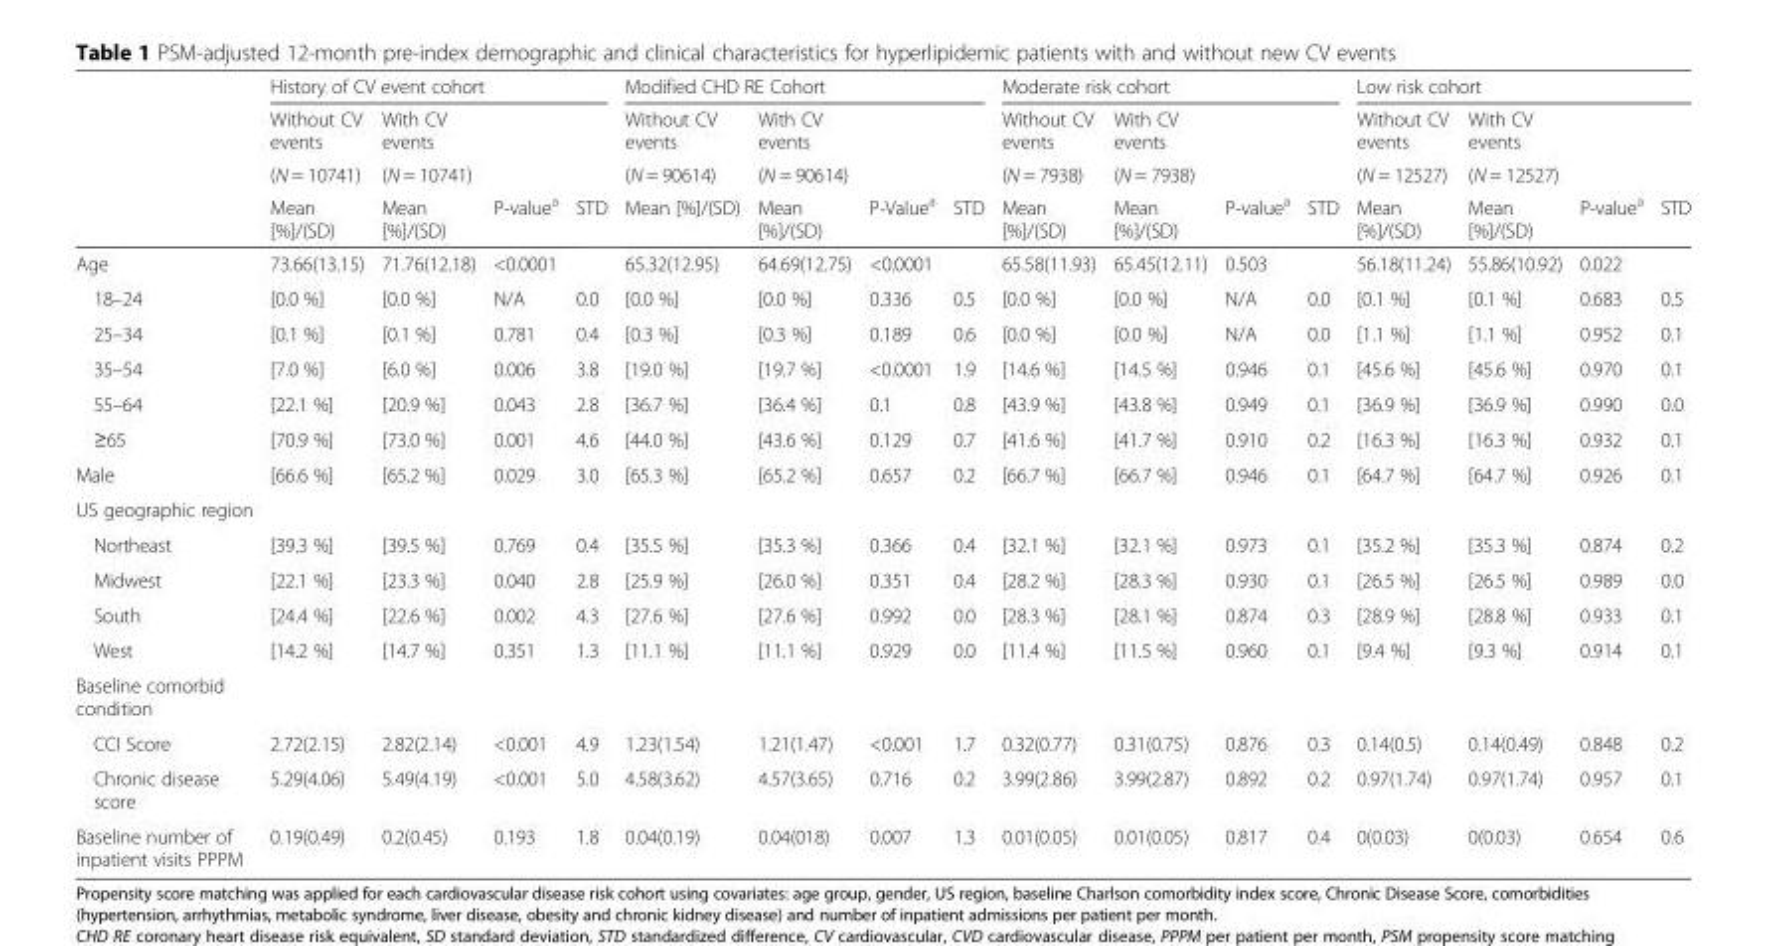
<table><thead><tr><td rowspan="4"></td><td colspan="4">History of CV event cohort</td><td colspan="4">Modified CHD RE Cohort</td><td colspan="4">Moderate risk cohort</td><td colspan="4">Low risk cohort</td></tr><tr><td rowspan="3">Without CV events (N = 10741) Mean [%]/(SD)</td><td rowspan="3">With CV events (N = 10741) Mean [%]/(SD)</td><td rowspan="3">P-valuea</td><td rowspan="3">STD</td><td rowspan="3">Without CV events (N = 90614) Mean [%]/(SD)</td><td rowspan="3">With CV events (N = 90614) Mean [%]/(SD)</td><td rowspan="3">P-Valuea</td><td rowspan="3">STD</td><td rowspan="3">Without CV events (N = 7938) Mean [%]/(SD)</td><td rowspan="3">With CV events (N = 7938) Mean [%]/(SD)</td><td rowspan="3">P-valuea</td><td rowspan="3">STD</td><td rowspan="3">Without CV events (N = 12527) Mean [%]/(SD)</td><td rowspan="3">With CV events (N = 12527) Mean [%]/(SD)</td><td rowspan="3">P-valuea</td><td rowspan="3">STD</td></tr><tr></tr><tr></tr></thead><tbody><tr><td>Age</td><td>73.66(13.15)</td><td>71.76(12.18)</td><td>&lt;0.0001</td><td></td><td>65.32(12.95)</td><td>64.69(12.75)</td><td>&lt;0.0001</td><td></td><td>65.58(11.93)</td><td>65.45(12.11)</td><td>0.503</td><td></td><td>56.18(11.24)</td><td>55.86(10.92)</td><td>0.022</td><td></td></tr><tr><td>18–24</td><td>[0.0 %]</td><td>[0.0 %]</td><td>N/A</td><td>0.0</td><td>[0.0 %]</td><td>[0.0 %]</td><td>0.336</td><td>0.5</td><td>[0.0 %]</td><td>[0.0 %]</td><td>N/A</td><td>0.0</td><td>[0.1 %]</td><td>[0.1 %]</td><td>0.683</td><td>0.5</td></tr><tr><td>25–34</td><td>[0.1 %]</td><td>[0.1 %]</td><td>0.781</td><td>0.4</td><td>[0.3 %]</td><td>[0.3 %]</td><td>0.189</td><td>0.6</td><td>[0.0 %]</td><td>[0.0 %]</td><td>N/A</td><td>0.0</td><td>[1.1 %]</td><td>[1.1 %]</td><td>0.952</td><td>0.1</td></tr><tr><td>35–54</td><td>[7.0 %]</td><td>[6.0 %]</td><td>0.006</td><td>3.8</td><td>[19.0 %]</td><td>[19.7 %]</td><td>&lt;0.0001</td><td>1.9</td><td>[14.6 %]</td><td>[14.5 %]</td><td>0.946</td><td>0.1</td><td>[45.6 %]</td><td>[45.6 %]</td><td>0.970</td><td>0.1</td></tr><tr><td>55–64</td><td>[22.1 %]</td><td>[20.9 %]</td><td>0.043</td><td>2.8</td><td>[36.7 %]</td><td>[36.4 %]</td><td>0.1</td><td>0.8</td><td>[43.9 %]</td><td>[43.8 %]</td><td>0.949</td><td>0.1</td><td>[36.9 %]</td><td>[36.9 %]</td><td>0.990</td><td>0.0</td></tr><tr><td>≥65</td><td>[70.9 %]</td><td>[73.0 %]</td><td>0.001</td><td>4.6</td><td>[44.0 %]</td><td>[43.6 %]</td><td>0.129</td><td>0.7</td><td>[41.6 %]</td><td>[41.7 %]</td><td>0.910</td><td>0.2</td><td>[16.3 %]</td><td>[16.3 %]</td><td>0.932</td><td>0.1</td></tr><tr><td>Male</td><td>[66.6 %]</td><td>[65.2 %]</td><td>0.029</td><td>3.0</td><td>[65.3 %]</td><td>[65.2 %]</td><td>0.657</td><td>0.2</td><td>[66.7 %]</td><td>[66.7 %]</td><td>0.946</td><td>0.1</td><td>[64.7 %]</td><td>[64.7 %]</td><td>0.926</td><td>0.1</td></tr><tr><td colspan="17">US geographic region</td></tr><tr><td>Northeast</td><td>[39.3 %]</td><td>[39.5 %]</td><td>0.769</td><td>0.4</td><td>[35.5 %]</td><td>[35.3 %]</td><td>0.366</td><td>0.4</td><td>[32.1 %]</td><td>[32.1 %]</td><td>0.973</td><td>0.1</td><td>[35.2 %]</td><td>[35.3 %]</td><td>0.874</td><td>0.2</td></tr><tr><td>Midwest</td><td>[22.1 %]</td><td>[23.3 %]</td><td>0.040</td><td>2.8</td><td>[25.9 %]</td><td>[26.0 %]</td><td>0.351</td><td>0.4</td><td>[28.2 %]</td><td>[28.3 %]</td><td>0.930</td><td>0.1</td><td>[26.5 %]</td><td>[26.5 %]</td><td>0.989</td><td>0.0</td></tr><tr><td>South</td><td>[24.4 %]</td><td>[22.6 %]</td><td>0.002</td><td>4.3</td><td>[27.6 %]</td><td>[27.6 %]</td><td>0.992</td><td>0.0</td><td>[28.3 %]</td><td>[28.1 %]</td><td>0.874</td><td>0.3</td><td>[28.9 %]</td><td>[28.8 %]</td><td>0.933</td><td>0.1</td></tr><tr><td>West</td><td>[14.2 %]</td><td>[14.7 %]</td><td>0.351</td><td>1.3</td><td>[11.1 %]</td><td>[11.1 %]</td><td>0.929</td><td>0.0</td><td>[11.4 %]</td><td>[11.5 %]</td><td>0.960</td><td>0.1</td><td>[9.4 %]</td><td>[9.3 %]</td><td>0.914</td><td>0.1</td></tr><tr><td colspan="17">Baseline comorbid condition</td></tr><tr><td>CCI Score</td><td>2.72(2.15)</td><td>2.82(2.14)</td><td>&lt;0.001</td><td>4.9</td><td>1.23(1.54)</td><td>1.21(1.47)</td><td>&lt;0.001</td><td>1.7</td><td>0.32(0.77)</td><td>0.31(0.75)</td><td>0.876</td><td>0.3</td><td>0.14(0.5)</td><td>0.14(0.49)</td><td>0.848</td><td>0.2</td></tr><tr><td>Chronic disease score</td><td>5.29(4.06)</td><td>5.49(4.19)</td><td>&lt;0.001</td><td>5.0</td><td>4.58(3.62)</td><td>4.57(3.65)</td><td>0.716</td><td>0.2</td><td>3.99(2.86)</td><td>3.99(2.87)</td><td>0.892</td><td>0.2</td><td>0.97(1.74)</td><td>0.97(1.74)</td><td>0.957</td><td>0.1</td></tr><tr><td>Baseline number of inpatient visits PPPM</td><td>0.19(0.49)</td><td>0.2(0.45)</td><td>0.193</td><td>1.8</td><td>0.04(0.19)</td><td>0.04(018)</td><td>0.007</td><td>1.3</td><td>0.01(0.05)</td><td>0.01(0.05)</td><td>0.817</td><td>0.4</td><td>0(0.03)</td><td>0(0.03)</td><td>0.654</td><td>0.6</td></tr></tbody></table>